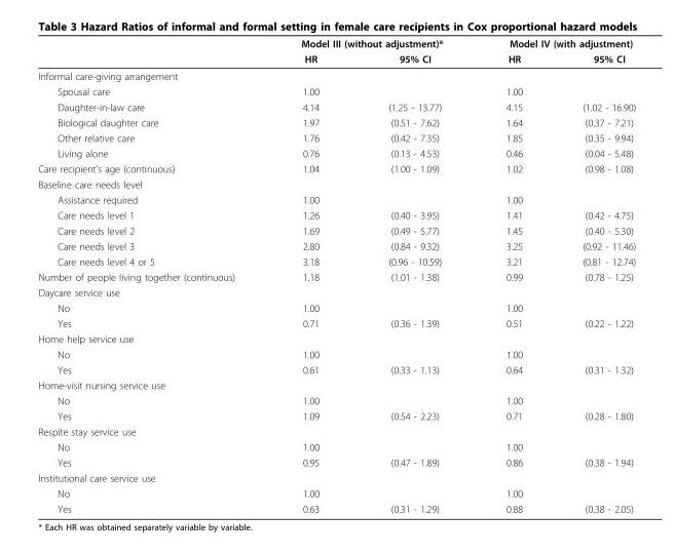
<table><thead><tr><td rowspan="2"></td><td colspan="2">Model III (without adjustment)*</td><td colspan="2">Model IV (with adjustment)</td></tr><tr><td>HR</td><td>95% CI</td><td>HR</td><td>95% CI</td></tr></thead><tbody><tr><td colspan="5">Informal care-giving arrangement</td></tr><tr><td>Spousal care</td><td>1.00</td><td></td><td>1.00</td><td></td></tr><tr><td>Daughter-in-law care</td><td>4.14</td><td>(1.25 - 13.77)</td><td>4.15</td><td>(1.02 - 16.90)</td></tr><tr><td>Biological daughter care</td><td>1.97</td><td>(0.51 - 7.62)</td><td>1.64</td><td>(0.37 - 7.21)</td></tr><tr><td>Other relative care</td><td>1.76</td><td>(0.42 - 7.35)</td><td>1.85</td><td>(0.35 - 9.94)</td></tr><tr><td>Living alone</td><td>0.76</td><td>(0.13 - 4.53)</td><td>0.46</td><td>(0.04 - 5.48)</td></tr><tr><td>Care recipient’s age (continuous)</td><td>1.04</td><td>(1.00 - 1.09)</td><td>1.02</td><td>(0.98 - 1.08)</td></tr><tr><td colspan="5">Baseline care needs level</td></tr><tr><td>Assistance required</td><td>1.00</td><td></td><td>1.00</td><td></td></tr><tr><td>Care needs level 1</td><td>1.26</td><td>(0.40 - 3.95)</td><td>1.41</td><td>(0.42 - 4.75)</td></tr><tr><td>Care needs level 2</td><td>1.69</td><td>(0.49 - 5.77)</td><td>1.45</td><td>(0.40 - 5.30)</td></tr><tr><td>Care needs level 3</td><td>2.80</td><td>(0.84 - 9.32)</td><td>3.25</td><td>(0.92 - 11.46)</td></tr><tr><td>Care needs level 4 or 5</td><td>3.18</td><td>(0.96 - 10.59)</td><td>3.21</td><td>(0.81 - 12.74)</td></tr><tr><td>Number of people living together (continuous)</td><td>1.18</td><td>(1.01 - 1.38)</td><td>0.99</td><td>(0.78 - 1.25)</td></tr><tr><td colspan="5">Daycare service use</td></tr><tr><td>No</td><td>1.00</td><td></td><td>1.00</td><td></td></tr><tr><td>Yes</td><td>0.71</td><td>(0.36 - 1.39)</td><td>0.51</td><td>(0.22 - 1.22)</td></tr><tr><td colspan="5">Home help service use</td></tr><tr><td>No</td><td>1.00</td><td></td><td>1.00</td><td></td></tr><tr><td>Yes</td><td>0.61</td><td>(0.33 - 1.13)</td><td>0.64</td><td>(0.31 - 1.32)</td></tr><tr><td colspan="5">Home-visit nursing service use</td></tr><tr><td>No</td><td>1.00</td><td></td><td>1.00</td><td></td></tr><tr><td>Yes</td><td>1.09</td><td>(0.54 - 2.23)</td><td>0.71</td><td>(0.28 - 1.80)</td></tr><tr><td colspan="5">Respite stay service use</td></tr><tr><td>No</td><td>1.00</td><td></td><td>1.00</td><td></td></tr><tr><td>Yes</td><td>0.95</td><td>(0.47 - 1.89)</td><td>0.86</td><td>(0.38 - 1.94)</td></tr><tr><td colspan="5">Institutional care service use</td></tr><tr><td>No</td><td>1.00</td><td></td><td>1.00</td><td></td></tr><tr><td>Yes</td><td>0.63</td><td>(0.31 - 1.29)</td><td>0.88</td><td>(0.38 - 2.05)</td></tr></tbody></table>